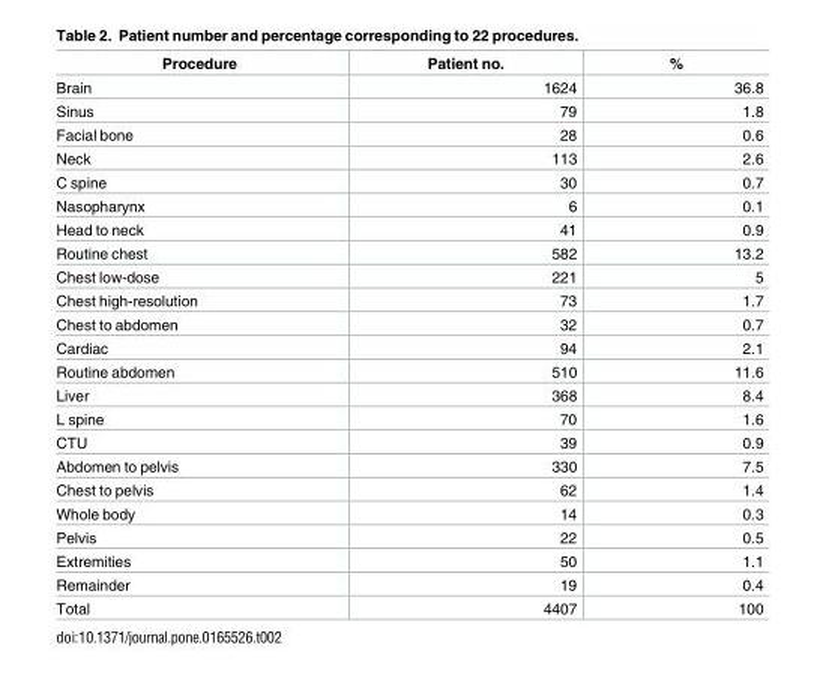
<table><thead><tr><td>Procedure</td><td>Patient no.</td><td>%</td></tr></thead><tbody><tr><td>Brain</td><td>1624</td><td>36.8</td></tr><tr><td>Sinus</td><td>79</td><td>1.8</td></tr><tr><td>Facial bone</td><td>28</td><td>0.6</td></tr><tr><td>Neck</td><td>113</td><td>2.6</td></tr><tr><td>C spine</td><td>30</td><td>0.7</td></tr><tr><td>Nasopharynx</td><td>6</td><td>0.1</td></tr><tr><td>Head to neck</td><td>41</td><td>0.9</td></tr><tr><td>Routine chest</td><td>582</td><td>13.2</td></tr><tr><td>Chest low-dose</td><td>221</td><td>5</td></tr><tr><td>Chest high-resolution</td><td>73</td><td>1.7</td></tr><tr><td>Chest to abdomen</td><td>32</td><td>0.7</td></tr><tr><td>Cardiac</td><td>94</td><td>2.1</td></tr><tr><td>Routine abdomen</td><td>510</td><td>11.6</td></tr><tr><td>Liver</td><td>368</td><td>8.4</td></tr><tr><td>L spine</td><td>70</td><td>1.6</td></tr><tr><td>CTU</td><td>39</td><td>0.9</td></tr><tr><td>Abdomen to pelvis</td><td>330</td><td>7.5</td></tr><tr><td>Chest to pelvis</td><td>62</td><td>1.4</td></tr><tr><td>Whole body</td><td>14</td><td>0.3</td></tr><tr><td>Pelvis</td><td>22</td><td>0.5</td></tr><tr><td>Extremities</td><td>50</td><td>1.1</td></tr><tr><td>Remainder</td><td>19</td><td>0.4</td></tr><tr><td>Total</td><td>4407</td><td>100</td></tr></tbody></table>